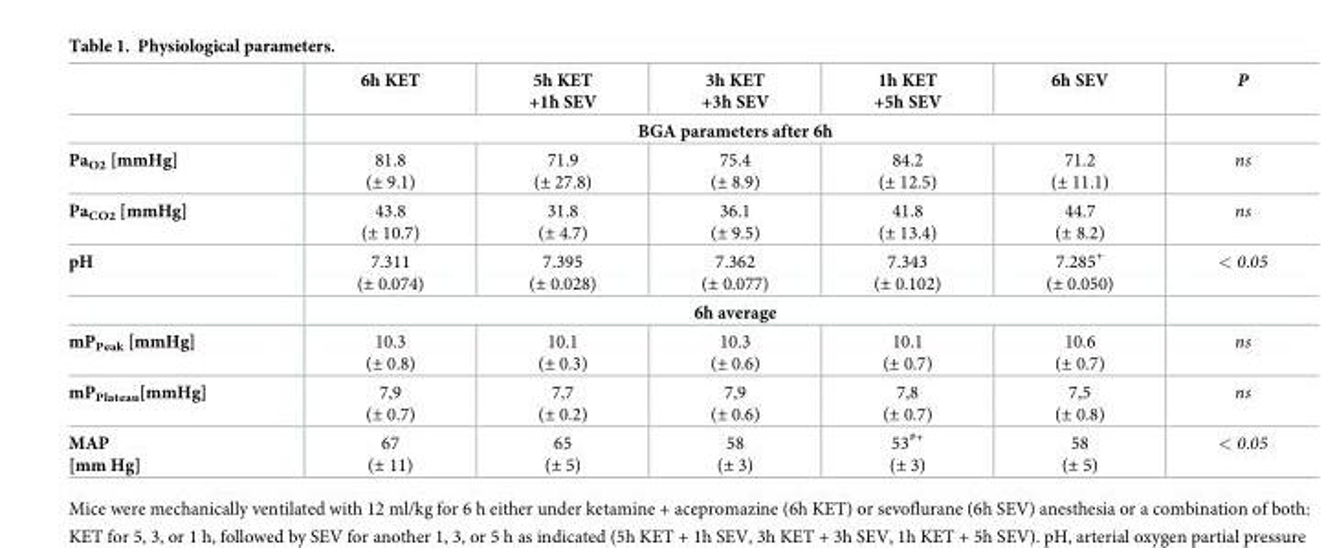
<table><thead><tr><td></td><td>6h KET</td><td>5h KET +1h SEV</td><td>3h KET +3h SEV</td><td>1h KET +5h SEV</td><td>6h SEV</td><td>P</td></tr></thead><tbody><tr><td></td><td colspan="5">BGA parameters after 6h</td><td></td></tr><tr><td>Pa<sub>O2</sub> [mmHg]</td><td>81.8 (± 9.1)</td><td>71.9 (± 27.8)</td><td>75.4 (± 8.9)</td><td>84.2 (± 12.5)</td><td>71.2 (± 11.1)</td><td>ns</td></tr><tr><td>Pa<sub>CO2</sub> [mmHg]</td><td>43.8 (± 10.7)</td><td>31.8 (± 4.7)</td><td>36.1 (± 9.5)</td><td>41.8 (± 13.4)</td><td>44.7 (± 8.2)</td><td>ns</td></tr><tr><td rowspan="2">pH</td><td>7.311 (± 0.074)</td><td>7.395 (± 0.028)</td><td>7.362 (± 0.077)</td><td>7.343 (± 0.102)</td><td>7.285<sup>+</sup> (± 0.050)</td><td>&lt; 0.05</td></tr><tr><td colspan="5">6h average</td><td></td></tr><tr><td>mP<sub>Peak</sub> [mmHg]</td><td>10.3 (± 0.8)</td><td>10.1 (± 0.3)</td><td>10.3 (± 0.6)</td><td>10.1 (± 0.7)</td><td>10.6 (± 0.7)</td><td>ns</td></tr><tr><td>mP<sub>Plateau</sub>[mmHg]</td><td>7,9 (± 0.7)</td><td>7,7 (± 0.2)</td><td>7,9 (± 0.6)</td><td>7,8 (± 0.7)</td><td>7,5 (± 0.8)</td><td>ns</td></tr><tr><td>MAP [mm Hg]</td><td>67 (± 11)</td><td>65 (± 5)</td><td>58 (± 3)</td><td>53<sup>#+</sup> (± 3)</td><td>58 (± 5)</td><td>&lt; 0.05</td></tr></tbody></table>